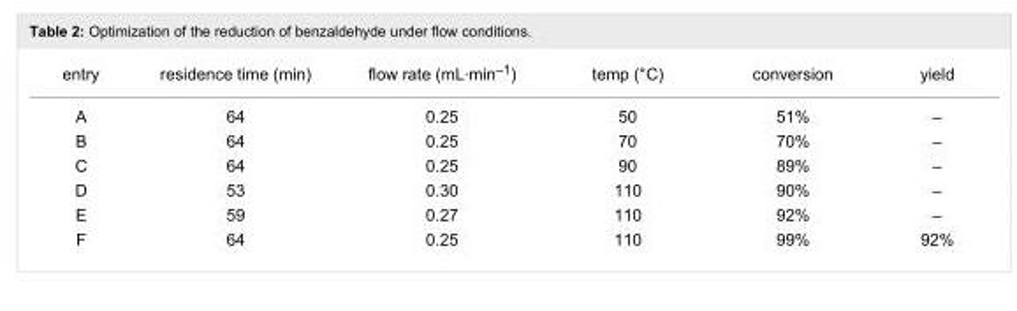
<table><tbody><tr><td>entry</td><td>residence time (min)</td><td>flow rate (mL·min<sup>–1</sup>)</td><td>temp (°C)</td><td>conversion</td><td>yield</td></tr><tr><td>A</td><td>64</td><td>0.25</td><td>50</td><td>51%</td><td>–</td></tr><tr><td>B</td><td>64</td><td>0.25</td><td>70</td><td>70%</td><td>–</td></tr><tr><td>C</td><td>64</td><td>0.25</td><td>90</td><td>89%</td><td>–</td></tr><tr><td>D</td><td>53</td><td>0.30</td><td>110</td><td>90%</td><td>–</td></tr><tr><td>E</td><td>59</td><td>0.27</td><td>110</td><td>92%</td><td>–</td></tr><tr><td>F</td><td>64</td><td>0.25</td><td>110</td><td>99%</td><td>92%</td></tr></tbody></table>